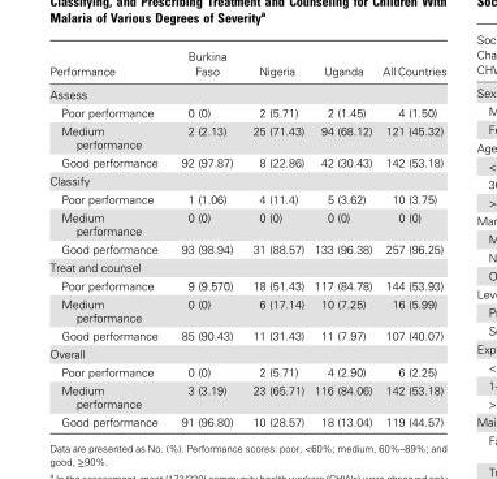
<table><thead><tr><td>Performance</td><td>Burkina Faso</td><td>Nigeria</td><td>Uganda</td><td>All Countries</td></tr></thead><tbody><tr><td colspan="5">Assess</td></tr><tr><td>Poor performance</td><td>0 (0)</td><td>2 (5.71)</td><td>2 (1.45)</td><td>4 (1.50)</td></tr><tr><td>Medium performance</td><td>2 (2.13)</td><td>25 (71.43)</td><td>94 (68.12)</td><td>121 (45.32)</td></tr><tr><td>Good performance</td><td>92 (97.87)</td><td>8 (22.86)</td><td>42 (30.43)</td><td>142 (53.18)</td></tr><tr><td colspan="5">Classify</td></tr><tr><td>Poor performance</td><td>1 (1.06)</td><td>4 (11.4)</td><td>5 (3.62)</td><td>10 (3.75)</td></tr><tr><td>Medium performance</td><td>0 (0)</td><td>0 (0)</td><td>0 (0)</td><td>0 (0)</td></tr><tr><td>Good performance</td><td>93 (98.94)</td><td>31 (88.57)</td><td>133 (96.38)</td><td>257 (96.25)</td></tr><tr><td colspan="5">Treat and counsel</td></tr><tr><td>Poor performance</td><td>9 (9.570)</td><td>18 (51.43)</td><td>117 (84.78)</td><td>144 (53.93)</td></tr><tr><td>Medium performance</td><td>0 (0)</td><td>6 (17.14)</td><td>10 (7.25)</td><td>16 (5.99)</td></tr><tr><td>Good performance</td><td>85 (90.43)</td><td>11 (31.43)</td><td>11 (7.97)</td><td>107 (40.07)</td></tr><tr><td colspan="5">Overall</td></tr><tr><td>Poor performance</td><td>0 (0)</td><td>2 (5.71)</td><td>4 (2.90)</td><td>6 (2.25)</td></tr><tr><td>Medium performance</td><td>3 (3.19)</td><td>23 (65.71)</td><td>116 (84.06)</td><td>142 (53.18)</td></tr><tr><td>Good performance</td><td>91 (96.80)</td><td>10 (28.57)</td><td>18 (13.04)</td><td>119 (44.57)</td></tr></tbody></table>